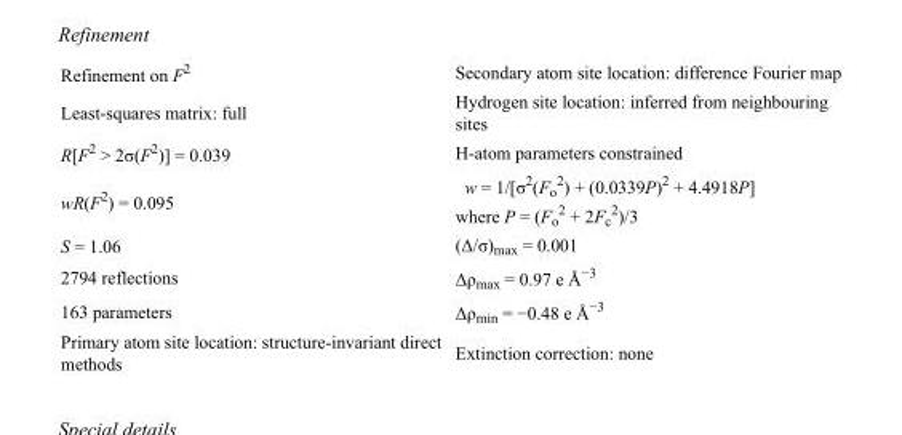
<table><tbody><tr><td>Refinement on F<sup>2</sup></td><td>Secondary atom site location: difference Fourier map</td></tr><tr><td>Least-squares matrix: full</td><td>Hydrogen site location: inferred from neighbouring sites</td></tr><tr><td>R[F<sup>2</sup> &gt; 2σ(F<sup>2</sup>)] = 0.039</td><td>H-atom parameters constrained</td></tr><tr><td>wR(F<sup>2</sup>) = 0.095</td><td>w = 1/[σ<sup>2</sup>(F<sub>o</sub> <sup>2</sup>) + (0.0339P)<sup>2</sup> + 4.4918P] where P = (F<sub>o</sub> <sup>2</sup> + 2F<sub>c</sub> <sup>2</sup>)/3</td></tr><tr><td>S = 1.06</td><td>(Δ/σ)<sub>max</sub> = 0.001</td></tr><tr><td>2794 reflections</td><td>Δρ<sub>max</sub> = 0.97 e Å<sup>−3</sup></td></tr><tr><td>163 parameters</td><td>Δρ<sub>min</sub> = −0.48 e Å<sup>−3</sup></td></tr><tr><td>Primary atom site location: structure-invariant direct methods</td><td>Extinction correction: none</td></tr></tbody></table>